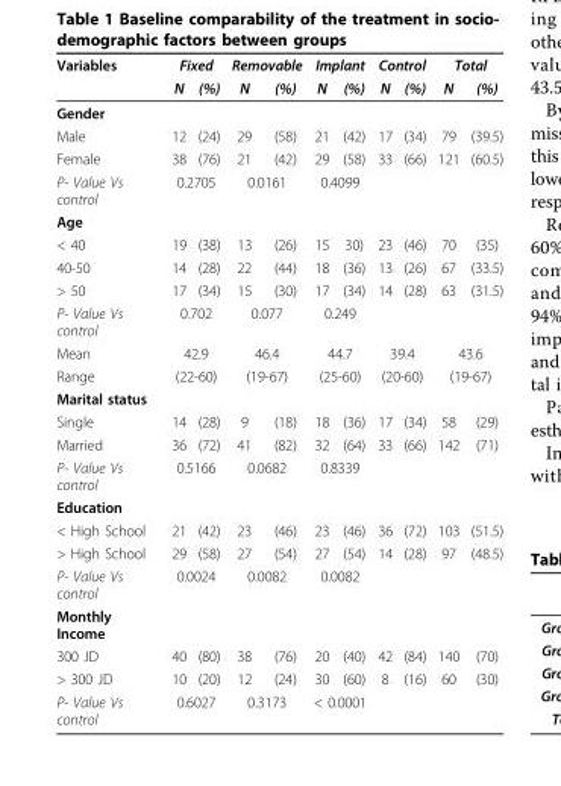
<table><thead><tr><td rowspan="2">Variables</td><td colspan="2">Fixed</td><td colspan="2">Removable</td><td colspan="2">Implant</td><td colspan="2">Control</td><td colspan="2">Total</td></tr><tr><td>N</td><td>(%)</td><td>N</td><td>(%)</td><td>N</td><td>(%)</td><td>N</td><td>(%)</td><td>N</td><td>(%)</td></tr></thead><tbody><tr><td colspan="11">Gender</td></tr><tr><td>Male</td><td>12</td><td>(24)</td><td>29</td><td>(58)</td><td>21</td><td>(42)</td><td>17</td><td>(34)</td><td>79</td><td>(39.5)</td></tr><tr><td>Female</td><td>38</td><td>(76)</td><td>21</td><td>(42)</td><td>29</td><td>(58)</td><td>33</td><td>(66)</td><td>121</td><td>(60.5)</td></tr><tr><td>P- Value Vs control</td><td colspan="2">0.2705</td><td colspan="2">0.0161</td><td colspan="2">0.4099</td><td></td><td></td><td></td><td></td></tr><tr><td colspan="11">Age</td></tr><tr><td>&lt; 40</td><td>19</td><td>(38)</td><td>13</td><td>(26)</td><td>15</td><td>30)</td><td>23</td><td>(46)</td><td>70</td><td>(35)</td></tr><tr><td>40-50</td><td>14</td><td>(28)</td><td>22</td><td>(44)</td><td>18</td><td>(36)</td><td>13</td><td>(26)</td><td>67</td><td>(33.5)</td></tr><tr><td>&gt; 50</td><td>17</td><td>(34)</td><td>15</td><td>(30)</td><td>17</td><td>(34)</td><td>14</td><td>(28)</td><td>63</td><td>(31.5)</td></tr><tr><td>P- Value Vs control</td><td colspan="2">0.702</td><td colspan="2">0.077</td><td colspan="2">0.249</td><td></td><td></td><td></td><td></td></tr><tr><td>Mean</td><td colspan="2">42.9</td><td colspan="2">46.4</td><td colspan="2">44.7</td><td colspan="2">39.4</td><td colspan="2">43.6</td></tr><tr><td>Range</td><td colspan="2">(22-60)</td><td colspan="2">(19-67)</td><td colspan="2">(25-60)</td><td colspan="2">(20-60)</td><td colspan="2">(19-67)</td></tr><tr><td colspan="11">Marital status</td></tr><tr><td>Single</td><td>14</td><td>(28)</td><td>9</td><td>(18)</td><td>18</td><td>(36)</td><td>17</td><td>(34)</td><td>58</td><td>(29)</td></tr><tr><td>Married</td><td>36</td><td>(72)</td><td>41</td><td>(82)</td><td>32</td><td>(64)</td><td>33</td><td>(66)</td><td>142</td><td>(71)</td></tr><tr><td>P- Value Vs control</td><td colspan="2">0.5166</td><td colspan="2">0.0682</td><td colspan="2">0.8339</td><td></td><td></td><td></td><td></td></tr><tr><td colspan="11">Education</td></tr><tr><td>&lt; High School</td><td>21</td><td>(42)</td><td>23</td><td>(46)</td><td>23</td><td>(46)</td><td>36</td><td>(72)</td><td>103</td><td>(51.5)</td></tr><tr><td>&gt; High School</td><td>29</td><td>(58)</td><td>27</td><td>(54)</td><td>27</td><td>(54)</td><td>14</td><td>(28)</td><td>97</td><td>(48.5)</td></tr><tr><td>P- Value Vs control</td><td colspan="2">0.0024</td><td colspan="2">0.0082</td><td colspan="2">0.0082</td><td></td><td></td><td></td><td></td></tr><tr><td colspan="11">Monthly Income</td></tr><tr><td>300 JD</td><td>40</td><td>(80)</td><td>38</td><td>(76)</td><td>20</td><td>(40)</td><td>42</td><td>(84)</td><td>140</td><td>(70)</td></tr><tr><td>&gt; 300 JD</td><td>10</td><td>(20)</td><td>12</td><td>(24)</td><td>30</td><td>(60)</td><td>8</td><td>(16)</td><td>60</td><td>(30)</td></tr><tr><td>P- Value Vs control</td><td colspan="2">0.6027</td><td colspan="2">0.3173</td><td colspan="2">&lt; 0.0001</td><td></td><td></td><td></td><td></td></tr></tbody></table>